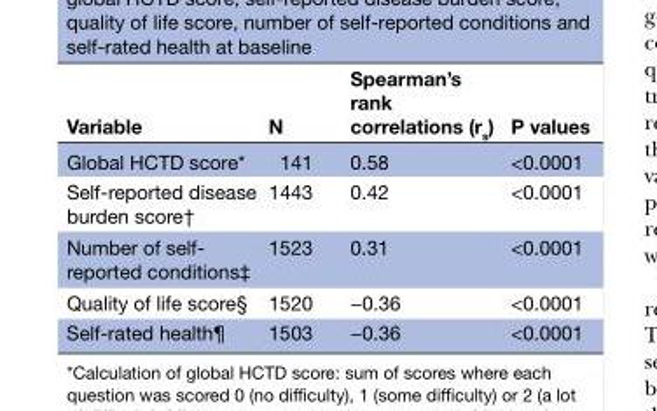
<table><thead><tr><td>Variable</td><td>N</td><td>Spearman’s rank correlations (r<sub>s</sub>)</td><td>P values</td></tr></thead><tbody><tr><td>Global HCTD score*</td><td>141</td><td>0.58</td><td>&lt;0.0001</td></tr><tr><td>Self-reported disease burden score†</td><td>1443</td><td>0.42</td><td>&lt;0.0001</td></tr><tr><td>Number of self- reported conditions‡</td><td>1523</td><td>0.31</td><td>&lt;0.0001</td></tr><tr><td>Quality of life score§</td><td>1520</td><td>−0.36</td><td>&lt;0.0001</td></tr><tr><td>Self-rated health¶</td><td>1503</td><td>−0.36</td><td>&lt;0.0001</td></tr></tbody></table>